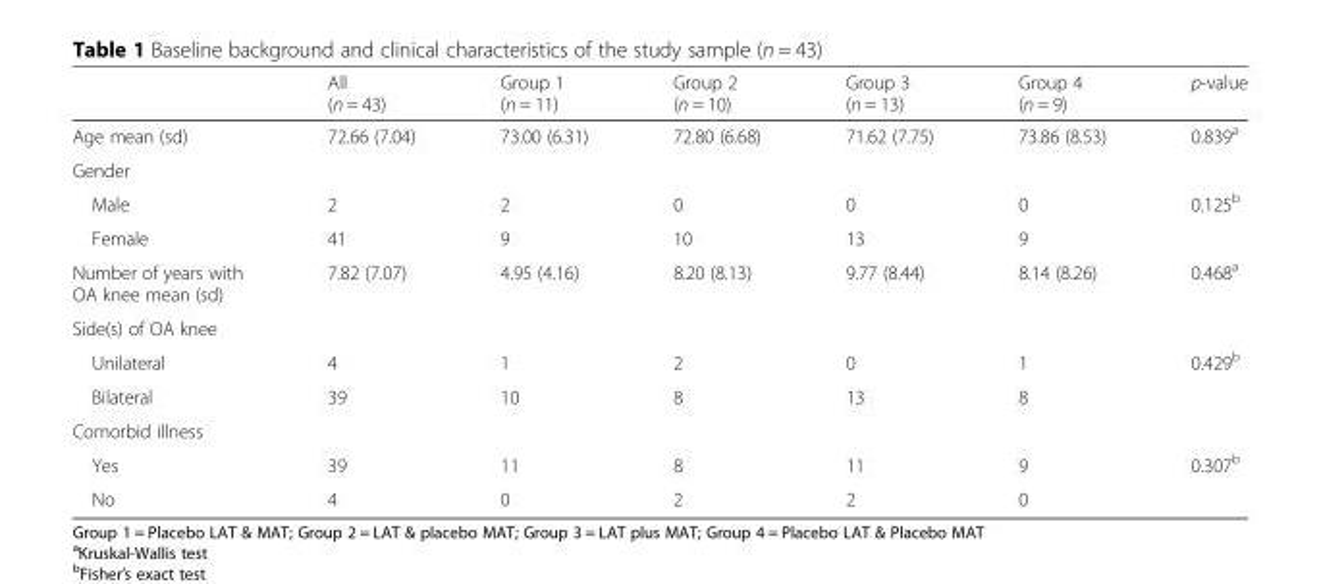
<table><thead><tr><td></td><td>All (n = 43)</td><td>Group 1 (n = 11)</td><td>Group 2 (n = 10)</td><td>Group 3 (n = 13)</td><td>Group 4 (n = 9)</td><td>p-value</td></tr></thead><tbody><tr><td>Age mean (sd)</td><td>72.66 (7.04)</td><td>73.00 (6.31)</td><td>72.80 (6.68)</td><td>71.62 (7.75)</td><td>73.86 (8.53)</td><td>0.839<sup>a</sup></td></tr><tr><td colspan="7">Gender</td></tr><tr><td>Male</td><td>2</td><td>2</td><td>0</td><td>0</td><td>0</td><td rowspan="2">0.125<sup>b</sup></td></tr><tr><td>Female</td><td>41</td><td>9</td><td>10</td><td>13</td><td>9</td></tr><tr><td>Number of years with OA knee mean (sd)</td><td>7.82 (7.07)</td><td>4.95 (4.16)</td><td>8.20 (8.13)</td><td>9.77 (8.44)</td><td>8.14 (8.26)</td><td>0.468<sup>a</sup></td></tr><tr><td colspan="7">Side(s) of OA knee</td></tr><tr><td>Unilateral</td><td>4</td><td>1</td><td>2</td><td>0</td><td>1</td><td rowspan="2">0.429<sup>b</sup></td></tr><tr><td>Bilateral</td><td>39</td><td>10</td><td>8</td><td>13</td><td>8</td></tr><tr><td colspan="7">Comorbid illness</td></tr><tr><td>Yes</td><td>39</td><td>11</td><td>8</td><td>11</td><td>9</td><td rowspan="2">0.307<sup>b</sup></td></tr><tr><td>No</td><td>4</td><td>0</td><td>2</td><td>2</td><td>0</td></tr></tbody></table>